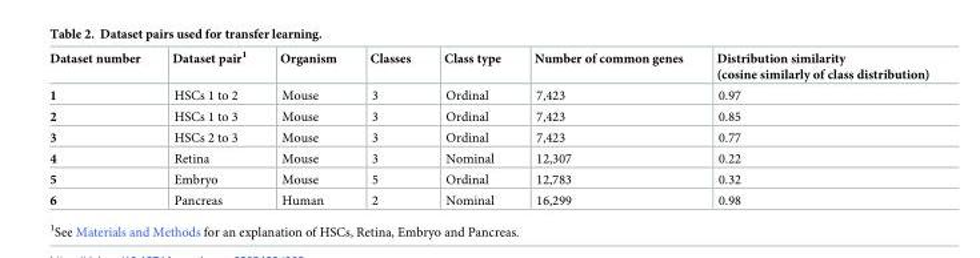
<table><thead><tr><td>Dataset number</td><td>Dataset pair<sup>1</sup></td><td>Organism</td><td>Classes</td><td>Class type</td><td>Number of common genes</td><td>Distribution similarity (cosine similarly of class distribution)</td></tr></thead><tbody><tr><td>1</td><td>HSCs 1 to 2</td><td>Mouse</td><td>3</td><td>Ordinal</td><td>7,423</td><td>0.97</td></tr><tr><td>2</td><td>HSCs 1 to 3</td><td>Mouse</td><td>3</td><td>Ordinal</td><td>7,423</td><td>0.85</td></tr><tr><td>3</td><td>HSCs 2 to 3</td><td>Mouse</td><td>3</td><td>Ordinal</td><td>7,423</td><td>0.77</td></tr><tr><td>4</td><td>Retina</td><td>Mouse</td><td>3</td><td>Nominal</td><td>12,307</td><td>0.22</td></tr><tr><td>5</td><td>Embryo</td><td>Mouse</td><td>5</td><td>Ordinal</td><td>12,783</td><td>0.32</td></tr><tr><td>6</td><td>Pancreas</td><td>Human</td><td>2</td><td>Nominal</td><td>16,299</td><td>0.98</td></tr></tbody></table>